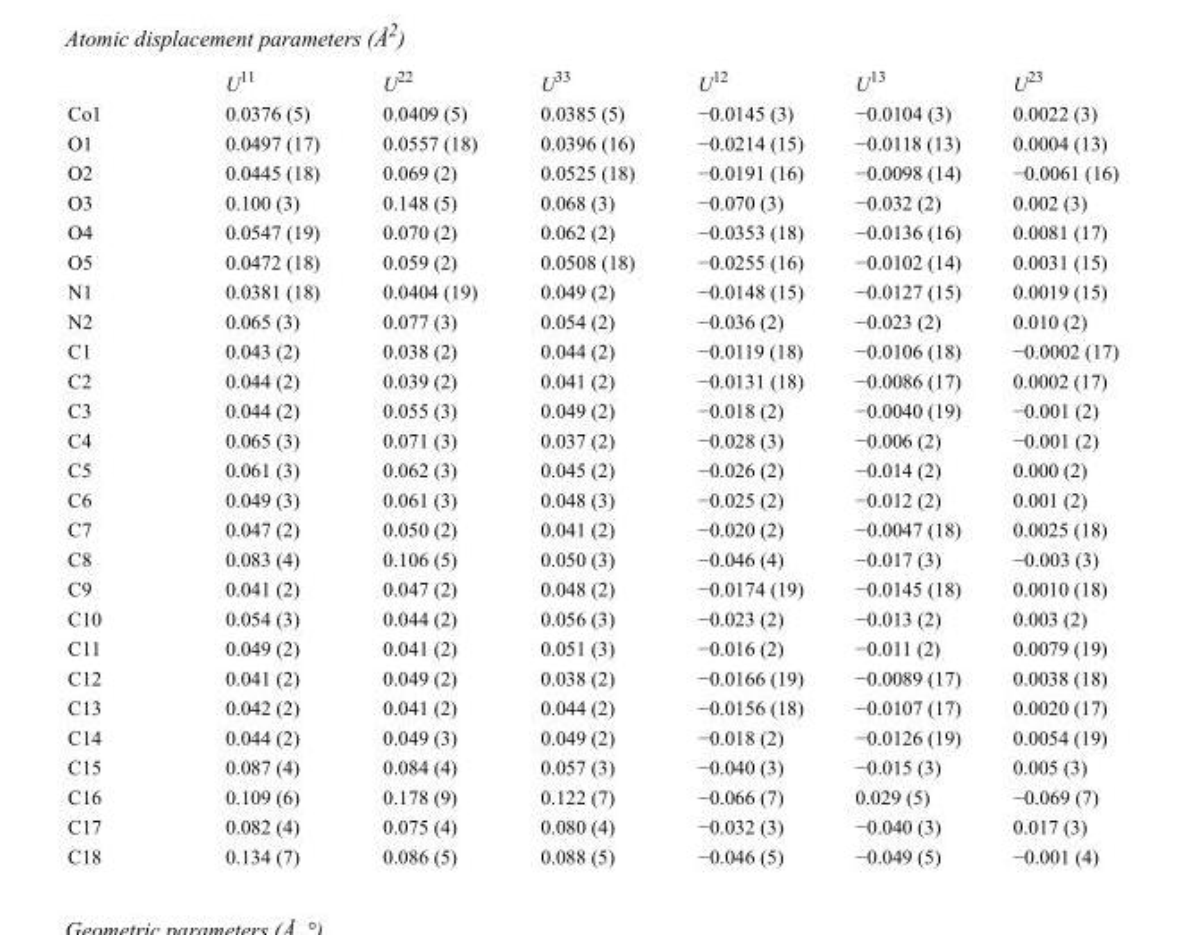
<table><thead><tr><td></td><td>U<sup>11</sup></td><td>U<sup>22</sup></td><td>U<sup>33</sup></td><td>U<sup>12</sup></td><td>U<sup>13</sup></td><td>U<sup>23</sup></td></tr></thead><tbody><tr><td>Co1</td><td>0.0376 (5)</td><td>0.0409 (5)</td><td>0.0385 (5)</td><td>−0.0145 (3)</td><td>−0.0104 (3)</td><td>0.0022 (3)</td></tr><tr><td>O1</td><td>0.0497 (17)</td><td>0.0557 (18)</td><td>0.0396 (16)</td><td>−0.0214 (15)</td><td>−0.0118 (13)</td><td>0.0004 (13)</td></tr><tr><td>O2</td><td>0.0445 (18)</td><td>0.069 (2)</td><td>0.0525 (18)</td><td>−0.0191 (16)</td><td>−0.0098 (14)</td><td>−0.0061 (16)</td></tr><tr><td>O3</td><td>0.100 (3)</td><td>0.148 (5)</td><td>0.068 (3)</td><td>−0.070 (3)</td><td>−0.032 (2)</td><td>0.002 (3)</td></tr><tr><td>O4</td><td>0.0547 (19)</td><td>0.070 (2)</td><td>0.062 (2)</td><td>−0.0353 (18)</td><td>−0.0136 (16)</td><td>0.0081 (17)</td></tr><tr><td>O5</td><td>0.0472 (18)</td><td>0.059 (2)</td><td>0.0508 (18)</td><td>−0.0255 (16)</td><td>−0.0102 (14)</td><td>0.0031 (15)</td></tr><tr><td>N1</td><td>0.0381 (18)</td><td>0.0404 (19)</td><td>0.049 (2)</td><td>−0.0148 (15)</td><td>−0.0127 (15)</td><td>0.0019 (15)</td></tr><tr><td>N2</td><td>0.065 (3)</td><td>0.077 (3)</td><td>0.054 (2)</td><td>−0.036 (2)</td><td>−0.023 (2)</td><td>0.010 (2)</td></tr><tr><td>C1</td><td>0.043 (2)</td><td>0.038 (2)</td><td>0.044 (2)</td><td>−0.0119 (18)</td><td>−0.0106 (18)</td><td>−0.0002 (17)</td></tr><tr><td>C2</td><td>0.044 (2)</td><td>0.039 (2)</td><td>0.041 (2)</td><td>−0.0131 (18)</td><td>−0.0086 (17)</td><td>0.0002 (17)</td></tr><tr><td>C3</td><td>0.044 (2)</td><td>0.055 (3)</td><td>0.049 (2)</td><td>−0.018 (2)</td><td>−0.0040 (19)</td><td>−0.001 (2)</td></tr><tr><td>C4</td><td>0.065 (3)</td><td>0.071 (3)</td><td>0.037 (2)</td><td>−0.028 (3)</td><td>−0.006 (2)</td><td>−0.001 (2)</td></tr><tr><td>C5</td><td>0.061 (3)</td><td>0.062 (3)</td><td>0.045 (2)</td><td>−0.026 (2)</td><td>−0.014 (2)</td><td>0.000 (2)</td></tr><tr><td>C6</td><td>0.049 (3)</td><td>0.061 (3)</td><td>0.048 (3)</td><td>−0.025 (2)</td><td>−0.012 (2)</td><td>0.001 (2)</td></tr><tr><td>C7</td><td>0.047 (2)</td><td>0.050 (2)</td><td>0.041 (2)</td><td>−0.020 (2)</td><td>−0.0047 (18)</td><td>0.0025 (18)</td></tr><tr><td>C8</td><td>0.083 (4)</td><td>0.106 (5)</td><td>0.050 (3)</td><td>−0.046 (4)</td><td>−0.017 (3)</td><td>−0.003 (3)</td></tr><tr><td>C9</td><td>0.041 (2)</td><td>0.047 (2)</td><td>0.048 (2)</td><td>−0.0174 (19)</td><td>−0.0145 (18)</td><td>0.0010 (18)</td></tr><tr><td>C10</td><td>0.054 (3)</td><td>0.044 (2)</td><td>0.056 (3)</td><td>−0.023 (2)</td><td>−0.013 (2)</td><td>0.003 (2)</td></tr><tr><td>C11</td><td>0.049 (2)</td><td>0.041 (2)</td><td>0.051 (3)</td><td>−0.016 (2)</td><td>−0.011 (2)</td><td>0.0079 (19)</td></tr><tr><td>C12</td><td>0.041 (2)</td><td>0.049 (2)</td><td>0.038 (2)</td><td>−0.0166 (19)</td><td>−0.0089 (17)</td><td>0.0038 (18)</td></tr><tr><td>C13</td><td>0.042 (2)</td><td>0.041 (2)</td><td>0.044 (2)</td><td>−0.0156 (18)</td><td>−0.0107 (17)</td><td>0.0020 (17)</td></tr><tr><td>C14</td><td>0.044 (2)</td><td>0.049 (3)</td><td>0.049 (2)</td><td>−0.018 (2)</td><td>−0.0126 (19)</td><td>0.0054 (19)</td></tr><tr><td>C15</td><td>0.087 (4)</td><td>0.084 (4)</td><td>0.057 (3)</td><td>−0.040 (3)</td><td>−0.015 (3)</td><td>0.005 (3)</td></tr><tr><td>C16</td><td>0.109 (6)</td><td>0.178 (9)</td><td>0.122 (7)</td><td>−0.066 (7)</td><td>0.029 (5)</td><td>−0.069 (7)</td></tr><tr><td>C17</td><td>0.082 (4)</td><td>0.075 (4)</td><td>0.080 (4)</td><td>−0.032 (3)</td><td>−0.040 (3)</td><td>0.017 (3)</td></tr><tr><td>C18</td><td>0.134 (7)</td><td>0.086 (5)</td><td>0.088 (5)</td><td>−0.046 (5)</td><td>−0.049 (5)</td><td>−0.001 (4)</td></tr></tbody></table>